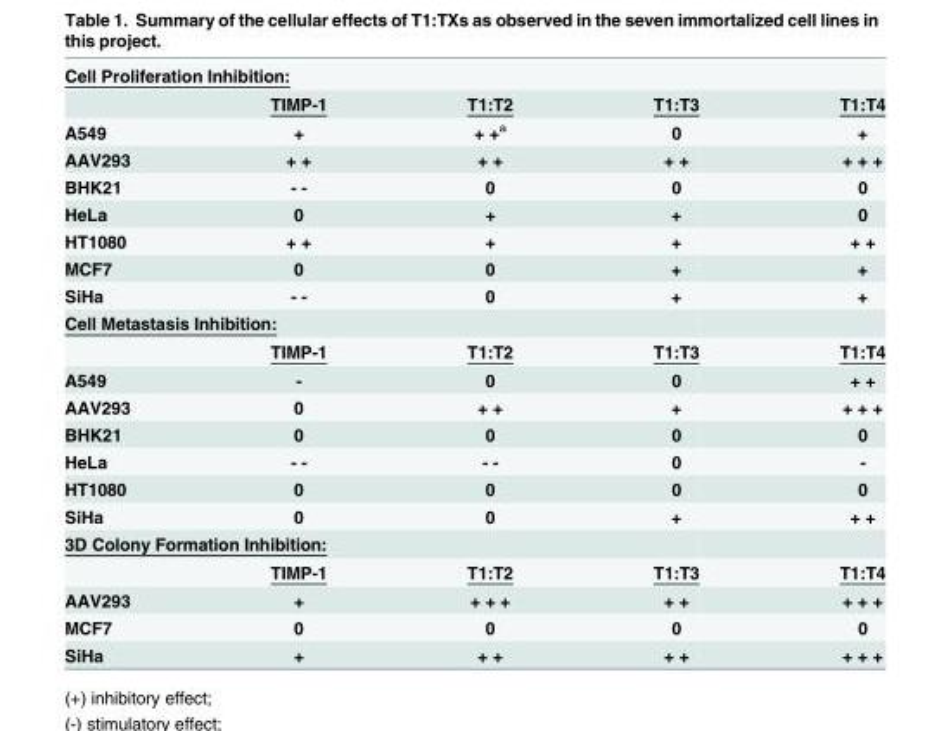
<table><tbody><tr><td colspan="5">Cell Proliferation Inhibition:</td></tr><tr><td></td><td>TIMP-1</td><td>T1:T2</td><td>T1:T3</td><td>T1:T4</td></tr><tr><td>A549</td><td>+</td><td>+ +<sup>a</sup></td><td>0</td><td>+</td></tr><tr><td>AAV293</td><td>+ +</td><td>+ +</td><td>+ +</td><td>+ + +</td></tr><tr><td>BHK21</td><td>- -</td><td>0</td><td>0</td><td>0</td></tr><tr><td>HeLa</td><td>0</td><td>+</td><td>+</td><td>0</td></tr><tr><td>HT1080</td><td>+ +</td><td>+</td><td>+</td><td>+ +</td></tr><tr><td>MCF7</td><td>0</td><td>0</td><td>+</td><td>+</td></tr><tr><td>SiHa</td><td>- -</td><td>0</td><td>+</td><td>+</td></tr><tr><td colspan="5">Cell Metastasis Inhibition:</td></tr><tr><td></td><td>TIMP-1</td><td>T1:T2</td><td>T1:T3</td><td>T1:T4</td></tr><tr><td>A549</td><td>-</td><td>0</td><td>0</td><td>+ +</td></tr><tr><td>AAV293</td><td>0</td><td>+ +</td><td>+</td><td>+ + +</td></tr><tr><td>BHK21</td><td>0</td><td>0</td><td>0</td><td>0</td></tr><tr><td>HeLa</td><td>- -</td><td>- -</td><td>0</td><td>-</td></tr><tr><td>HT1080</td><td>0</td><td>0</td><td>0</td><td>0</td></tr><tr><td>SiHa</td><td>0</td><td>0</td><td>+</td><td>+ +</td></tr><tr><td colspan="5">3D Colony Formation Inhibition:</td></tr><tr><td></td><td>TIMP-1</td><td>T1:T2</td><td>T1:T3</td><td>T1:T4</td></tr><tr><td>AAV293</td><td>+</td><td>+ + +</td><td>+ +</td><td>+ + +</td></tr><tr><td>MCF7</td><td>0</td><td>0</td><td>0</td><td>0</td></tr><tr><td>SiHa</td><td>+</td><td>+ +</td><td>+ +</td><td>+ + +</td></tr></tbody></table>